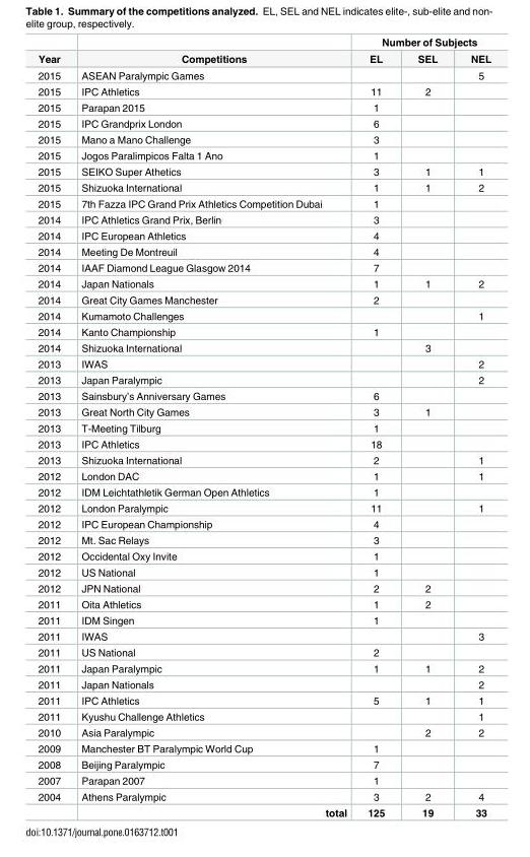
<table><thead><tr><td rowspan="2">Year</td><td rowspan="2">Competitions</td><td colspan="3">Number of Subjects</td></tr><tr><td>EL</td><td>SEL</td><td>NEL</td></tr></thead><tbody><tr><td>2015</td><td>ASEAN Paralympic Games</td><td></td><td></td><td>5</td></tr><tr><td>2015</td><td>IPC Athletics</td><td>11</td><td>2</td><td></td></tr><tr><td>2015</td><td>Parapan 2015</td><td>1</td><td></td><td></td></tr><tr><td>2015</td><td>IPC Grandprix London</td><td>6</td><td></td><td></td></tr><tr><td>2015</td><td>Mano a Mano Challenge</td><td>3</td><td></td><td></td></tr><tr><td>2015</td><td>Jogos Paralimpicos Falta 1 Ano</td><td>1</td><td></td><td></td></tr><tr><td>2015</td><td>SEIKO Super Athetics</td><td>3</td><td>1</td><td>1</td></tr><tr><td>2015</td><td>Shizuoka International</td><td>1</td><td>1</td><td>2</td></tr><tr><td>2015</td><td>7th Fazza IPC Grand Prix Athletics Competition Dubai</td><td>1</td><td></td><td></td></tr><tr><td>2014</td><td>IPC Athletics Grand Prix, Berlin</td><td>3</td><td></td><td></td></tr><tr><td>2014</td><td>IPC European Athletics</td><td>4</td><td></td><td></td></tr><tr><td>2014</td><td>Meeting De Montreuil</td><td>4</td><td></td><td></td></tr><tr><td>2014</td><td>IAAF Diamond League Glasgow 2014</td><td>7</td><td></td><td></td></tr><tr><td>2014</td><td>Japan Nationals</td><td>1</td><td>1</td><td>2</td></tr><tr><td>2014</td><td>Great City Games Manchester</td><td>2</td><td></td><td></td></tr><tr><td>2014</td><td>Kumamoto Challenges</td><td></td><td></td><td>1</td></tr><tr><td>2014</td><td>Kanto Championship</td><td>1</td><td></td><td></td></tr><tr><td>2014</td><td>Shizuoka International</td><td></td><td>3</td><td></td></tr><tr><td>2013</td><td>IWAS</td><td></td><td></td><td>2</td></tr><tr><td>2013</td><td>Japan Paralympic</td><td></td><td></td><td>2</td></tr><tr><td>2013</td><td>Sainsbury’s Anniversary Games</td><td>6</td><td></td><td></td></tr><tr><td>2013</td><td>Great North City Games</td><td>3</td><td>1</td><td></td></tr><tr><td>2013</td><td>T-Meeting Tilburg</td><td>1</td><td></td><td></td></tr><tr><td>2013</td><td>IPC Athletics</td><td>18</td><td></td><td></td></tr><tr><td>2013</td><td>Shizuoka International</td><td>2</td><td></td><td>1</td></tr><tr><td>2012</td><td>London DAC</td><td>1</td><td></td><td>1</td></tr><tr><td>2012</td><td>IDM Leichtathletik German Open Athletics</td><td>1</td><td></td><td></td></tr><tr><td>2012</td><td>London Paralympic</td><td>11</td><td></td><td>1</td></tr><tr><td>2012</td><td>IPC European Championship</td><td>4</td><td></td><td></td></tr><tr><td>2012</td><td>Mt. Sac Relays</td><td>3</td><td></td><td></td></tr><tr><td>2012</td><td>Occidental Oxy Invite</td><td>1</td><td></td><td></td></tr><tr><td>2012</td><td>US National</td><td>1</td><td></td><td></td></tr><tr><td>2012</td><td>JPN National</td><td>2</td><td>2</td><td></td></tr><tr><td>2011</td><td>Oita Athletics</td><td>1</td><td>2</td><td></td></tr><tr><td>2011</td><td>IDM Singen</td><td>1</td><td></td><td></td></tr><tr><td>2011</td><td>IWAS</td><td></td><td></td><td>3</td></tr><tr><td>2011</td><td>US National</td><td>2</td><td></td><td></td></tr><tr><td>2011</td><td>Japan Paralympic</td><td>1</td><td>1</td><td>2</td></tr><tr><td>2011</td><td>Japan Nationals</td><td></td><td></td><td>2</td></tr><tr><td>2011</td><td>IPC Athletics</td><td>5</td><td>1</td><td>1</td></tr><tr><td>2011</td><td>Kyushu Challenge Athletics</td><td></td><td></td><td>1</td></tr><tr><td>2010</td><td>Asia Paralympic</td><td></td><td>2</td><td>2</td></tr><tr><td>2009</td><td>Manchester BT Paralympic World Cup</td><td>1</td><td></td><td></td></tr><tr><td>2008</td><td>Beijing Paralympic</td><td>7</td><td></td><td></td></tr><tr><td>2007</td><td>Parapan 2007</td><td>1</td><td></td><td></td></tr><tr><td rowspan="2">2004</td><td>Athens Paralympic</td><td>3</td><td>2</td><td>4</td></tr><tr><td>total</td><td>125</td><td>19</td><td>33</td></tr></tbody></table>